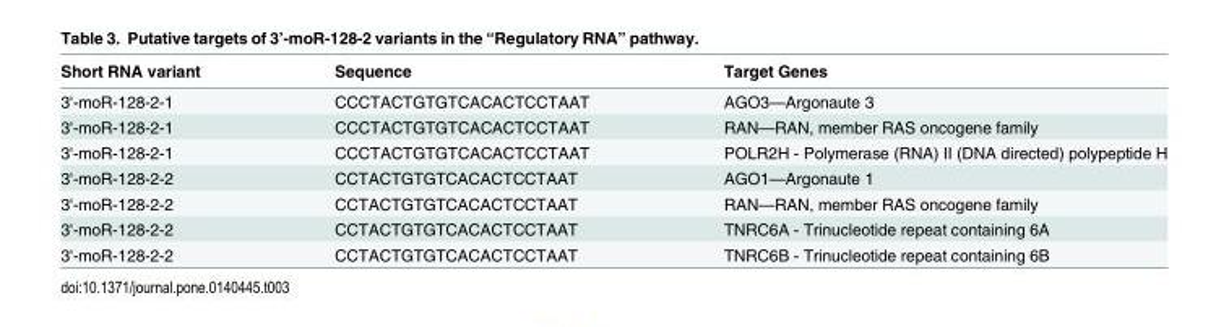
<table><thead><tr><td>Short RNA variant</td><td>Sequence</td><td>Target Genes</td></tr></thead><tbody><tr><td>3&#x27;-moR-128-2-1</td><td>CCCTACTGTGTCACACTCCTAAT</td><td>AGO3—Argonaute 3</td></tr><tr><td>3&#x27;-moR-128-2-1</td><td>CCCTACTGTGTCACACTCCTAAT</td><td>RAN—RAN, member RAS oncogene family</td></tr><tr><td>3&#x27;-moR-128-2-1</td><td>CCCTACTGTGTCACACTCCTAAT</td><td>POLR2H - Polymerase (RNA) II (DNA directed) polypeptide H</td></tr><tr><td>3&#x27;-moR-128-2-2</td><td>CCTACTGTGTCACACTCCTAAT</td><td>AGO1—Argonaute 1</td></tr><tr><td>3&#x27;-moR-128-2-2</td><td>CCTACTGTGTCACACTCCTAAT</td><td>RAN—RAN, member RAS oncogene family</td></tr><tr><td>3&#x27;-moR-128-2-2</td><td>CCTACTGTGTCACACTCCTAAT</td><td>TNRC6A - Trinucleotide repeat containing 6A</td></tr><tr><td>3&#x27;-moR-128-2-2</td><td>CCTACTGTGTCACACTCCTAAT</td><td>TNRC6B - Trinucleotide repeat containing 6B</td></tr></tbody></table>